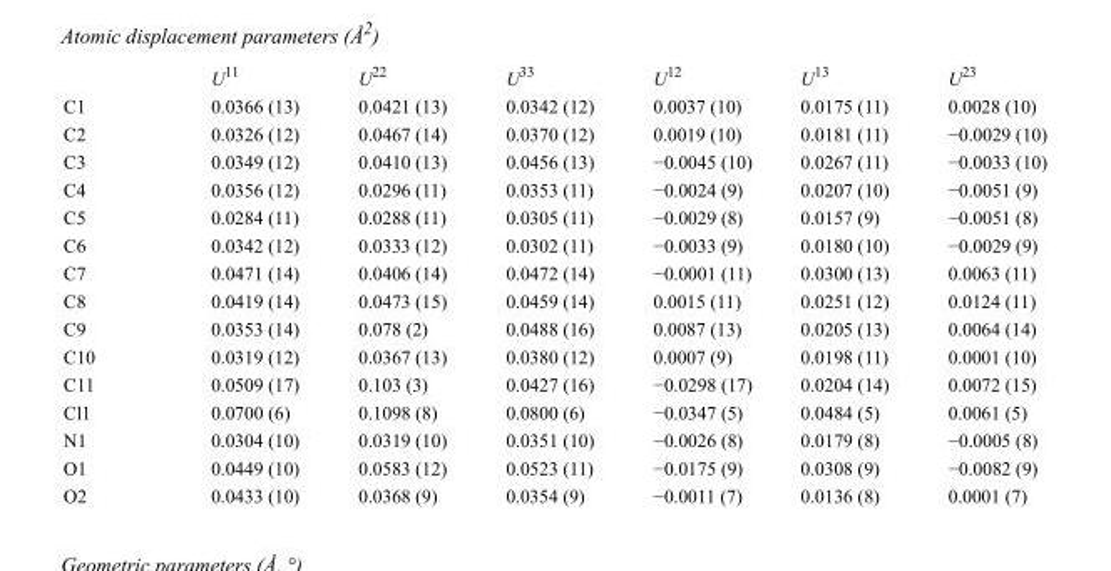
<table><thead><tr><td></td><td>U<sup>11</sup></td><td>U<sup>22</sup></td><td>U<sup>33</sup></td><td>U<sup>12</sup></td><td>U<sup>13</sup></td><td>U<sup>23</sup></td></tr></thead><tbody><tr><td>C1</td><td>0.0366 (13)</td><td>0.0421 (13)</td><td>0.0342 (12)</td><td>0.0037 (10)</td><td>0.0175 (11)</td><td>0.0028 (10)</td></tr><tr><td>C2</td><td>0.0326 (12)</td><td>0.0467 (14)</td><td>0.0370 (12)</td><td>0.0019 (10)</td><td>0.0181 (11)</td><td>−0.0029 (10)</td></tr><tr><td>C3</td><td>0.0349 (12)</td><td>0.0410 (13)</td><td>0.0456 (13)</td><td>−0.0045 (10)</td><td>0.0267 (11)</td><td>−0.0033 (10)</td></tr><tr><td>C4</td><td>0.0356 (12)</td><td>0.0296 (11)</td><td>0.0353 (11)</td><td>−0.0024 (9)</td><td>0.0207 (10)</td><td>−0.0051 (9)</td></tr><tr><td>C5</td><td>0.0284 (11)</td><td>0.0288 (11)</td><td>0.0305 (11)</td><td>−0.0029 (8)</td><td>0.0157 (9)</td><td>−0.0051 (8)</td></tr><tr><td>C6</td><td>0.0342 (12)</td><td>0.0333 (12)</td><td>0.0302 (11)</td><td>−0.0033 (9)</td><td>0.0180 (10)</td><td>−0.0029 (9)</td></tr><tr><td>C7</td><td>0.0471 (14)</td><td>0.0406 (14)</td><td>0.0472 (14)</td><td>−0.0001 (11)</td><td>0.0300 (13)</td><td>0.0063 (11)</td></tr><tr><td>C8</td><td>0.0419 (14)</td><td>0.0473 (15)</td><td>0.0459 (14)</td><td>0.0015 (11)</td><td>0.0251 (12)</td><td>0.0124 (11)</td></tr><tr><td>C9</td><td>0.0353 (14)</td><td>0.078 (2)</td><td>0.0488 (16)</td><td>0.0087 (13)</td><td>0.0205 (13)</td><td>0.0064 (14)</td></tr><tr><td>C10</td><td>0.0319 (12)</td><td>0.0367 (13)</td><td>0.0380 (12)</td><td>0.0007 (9)</td><td>0.0198 (11)</td><td>0.0001 (10)</td></tr><tr><td>C11</td><td>0.0509 (17)</td><td>0.103 (3)</td><td>0.0427 (16)</td><td>−0.0298 (17)</td><td>0.0204 (14)</td><td>0.0072 (15)</td></tr><tr><td>Cl1</td><td>0.0700 (6)</td><td>0.1098 (8)</td><td>0.0800 (6)</td><td>−0.0347 (5)</td><td>0.0484 (5)</td><td>0.0061 (5)</td></tr><tr><td>N1</td><td>0.0304 (10)</td><td>0.0319 (10)</td><td>0.0351 (10)</td><td>−0.0026 (8)</td><td>0.0179 (8)</td><td>−0.0005 (8)</td></tr><tr><td>O1</td><td>0.0449 (10)</td><td>0.0583 (12)</td><td>0.0523 (11)</td><td>−0.0175 (9)</td><td>0.0308 (9)</td><td>−0.0082 (9)</td></tr><tr><td>O2</td><td>0.0433 (10)</td><td>0.0368 (9)</td><td>0.0354 (9)</td><td>−0.0011 (7)</td><td>0.0136 (8)</td><td>0.0001 (7)</td></tr></tbody></table>